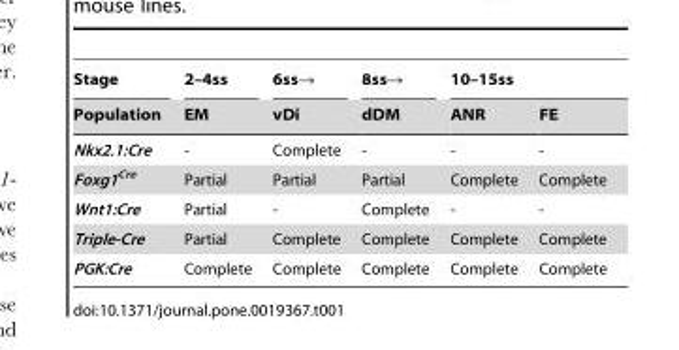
<table><thead><tr><td rowspan="2">Stage Population</td><td rowspan="2">2–4ss EM</td><td rowspan="2">6ss→ vDi</td><td rowspan="2">8ss→ dDM</td><td colspan="2">10–15ss</td></tr><tr><td>ANR</td><td>FE</td></tr></thead><tbody><tr><td>Nkx2.1:Cre</td><td>-</td><td>Complete</td><td>-</td><td>-</td><td>-</td></tr><tr><td>Foxg1<sup>Cre</sup></td><td>Partial</td><td>Partial</td><td>Partial</td><td>Complete</td><td>Complete</td></tr><tr><td>Wnt1:Cre</td><td>Partial</td><td>-</td><td>Complete</td><td>-</td><td>-</td></tr><tr><td>Triple-Cre</td><td>Partial</td><td>Complete</td><td>Complete</td><td>Complete</td><td>Complete</td></tr><tr><td>PGK:Cre</td><td>Complete</td><td>Complete</td><td>Complete</td><td>Complete</td><td>Complete</td></tr></tbody></table>